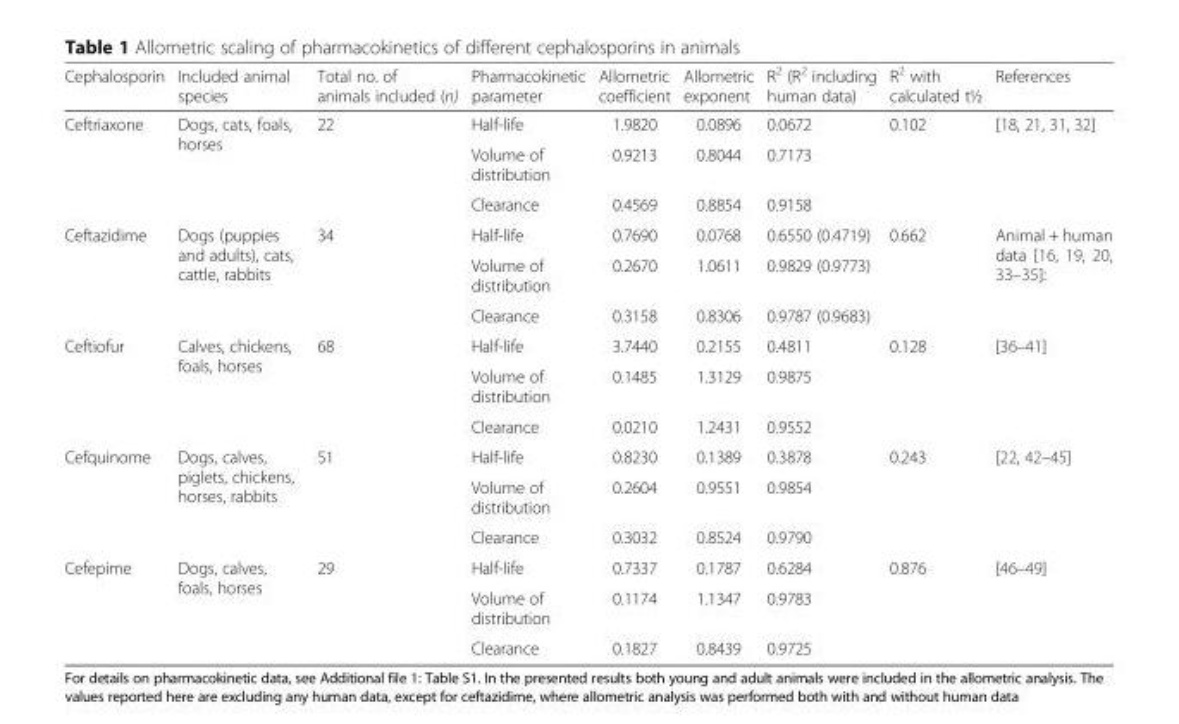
<table><thead><tr><td>Cephalosporin</td><td>Included animal species</td><td>Total no. of animals included (n)</td><td>Pharmacokinetic parameter</td><td>Allometric coefficient</td><td>Allometric exponent</td><td>R<sup>2</sup> (R<sup>2</sup> including human data)</td><td>R<sup>2</sup> with calculated t½</td><td>References</td></tr></thead><tbody><tr><td rowspan="3">Ceftriaxone</td><td rowspan="3">Dogs, cats, foals, horses</td><td rowspan="3">22</td><td>Half-life</td><td>1.9820</td><td>0.0896</td><td>0.0672</td><td>0.102</td><td rowspan="3">[18, 21, 31, 32]</td></tr><tr><td>Volume of distribution</td><td>0.9213</td><td>0.8044</td><td>0.7173</td><td></td></tr><tr><td>Clearance</td><td>0.4569</td><td>0.8854</td><td>0.9158</td><td></td></tr><tr><td rowspan="3">Ceftazidime</td><td rowspan="3">Dogs (puppies and adults), cats, cattle, rabbits</td><td rowspan="3">34</td><td>Half-life</td><td>0.7690</td><td>0.0768</td><td>0.6550 (0.4719)</td><td>0.662</td><td rowspan="3">Animal + human data [16, 19, 20, 33–35]:</td></tr><tr><td>Volume of distribution</td><td>0.2670</td><td>1.0611</td><td>0.9829 (0.9773)</td><td></td></tr><tr><td>Clearance</td><td>0.3158</td><td>0.8306</td><td>0.9787 (0.9683)</td><td></td></tr><tr><td rowspan="3">Ceftiofur</td><td rowspan="3">Calves, chickens, foals, horses</td><td rowspan="3">68</td><td>Half-life</td><td>3.7440</td><td>0.2155</td><td>0.4811</td><td>0.128</td><td rowspan="3">[36–41]</td></tr><tr><td>Volume of distribution</td><td>0.1485</td><td>1.3129</td><td>0.9875</td><td></td></tr><tr><td>Clearance</td><td>0.0210</td><td>1.2431</td><td>0.9552</td><td></td></tr><tr><td rowspan="3">Cefquinome</td><td rowspan="3">Dogs, calves, piglets, chickens, horses, rabbits</td><td rowspan="3">51</td><td>Half-life</td><td>0.8230</td><td>0.1389</td><td>0.3878</td><td>0.243</td><td rowspan="3">[22, 42–45]</td></tr><tr><td>Volume of distribution</td><td>0.2604</td><td>0.9551</td><td>0.9854</td><td></td></tr><tr><td>Clearance</td><td>0.3032</td><td>0.8524</td><td>0.9790</td><td></td></tr><tr><td rowspan="3">Cefepime</td><td rowspan="3">Dogs, calves, foals, horses</td><td rowspan="3">29</td><td>Half-life</td><td>0.7337</td><td>0.1787</td><td>0.6284</td><td>0.876</td><td rowspan="3">[46–49]</td></tr><tr><td>Volume of distribution</td><td>0.1174</td><td>1.1347</td><td>0.9783</td><td></td></tr><tr><td>Clearance</td><td>0.1827</td><td>0.8439</td><td>0.9725</td><td></td></tr></tbody></table>